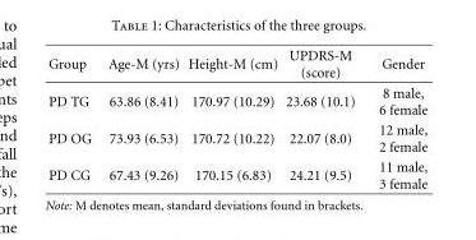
<table><thead><tr><td>Group</td><td>Age-M (yrs)</td><td>Height-M (cm)</td><td>UPDRS-M (score)</td><td>Gender</td></tr></thead><tbody><tr><td>PD TG</td><td>63.86 (8.41)</td><td>170.97 (10.29)</td><td>23.68 (10.1)</td><td>8 male, 6 female</td></tr><tr><td>PD OG</td><td>73.93 (6.53)</td><td>170.72 (10.22)</td><td>22.07 (8.0)</td><td>12 male, 2 female</td></tr><tr><td>PD CG</td><td>67.43 (9.26)</td><td>170.15 (6.83)</td><td>24.21 (9.5)</td><td>11 male, 3 female</td></tr></tbody></table>